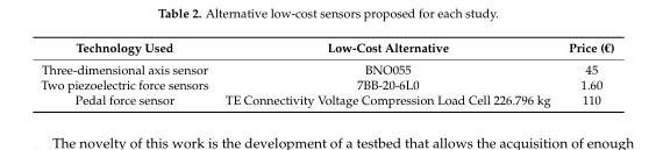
<table><thead><tr><td>Technology Used</td><td>Low-Cost Alternative</td><td>Price (€)</td></tr></thead><tbody><tr><td>Three-dimensional axis sensor</td><td>BNO055</td><td>45</td></tr><tr><td>Two piezoelectric force sensors</td><td>7BB-20-6L0</td><td>1.60</td></tr><tr><td>Pedal force sensor</td><td>TE Connectivity Voltage Compression Load Cell 226.796 kg</td><td>110</td></tr></tbody></table>